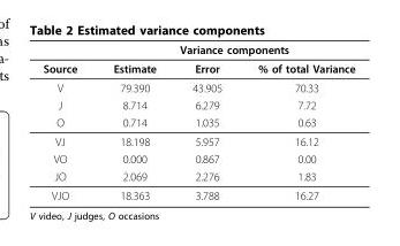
<table><thead><tr><td rowspan="2">Source</td><td colspan="3">Variance components</td></tr><tr><td>Estimate</td><td>Error</td><td>% of total Variance</td></tr></thead><tbody><tr><td>V</td><td>79.390</td><td>43.905</td><td>70.33</td></tr><tr><td>J</td><td>8.714</td><td>6.279</td><td>7.72</td></tr><tr><td>O</td><td>0.714</td><td>1.035</td><td>0.63</td></tr><tr><td>VJ</td><td>18.198</td><td>5.957</td><td>16.12</td></tr><tr><td>VO</td><td>0.000</td><td>0.867</td><td>0.00</td></tr><tr><td>JO</td><td>2.069</td><td>2.276</td><td>1.83</td></tr><tr><td>VJO</td><td>18.363</td><td>3.788</td><td>16.27</td></tr></tbody></table>